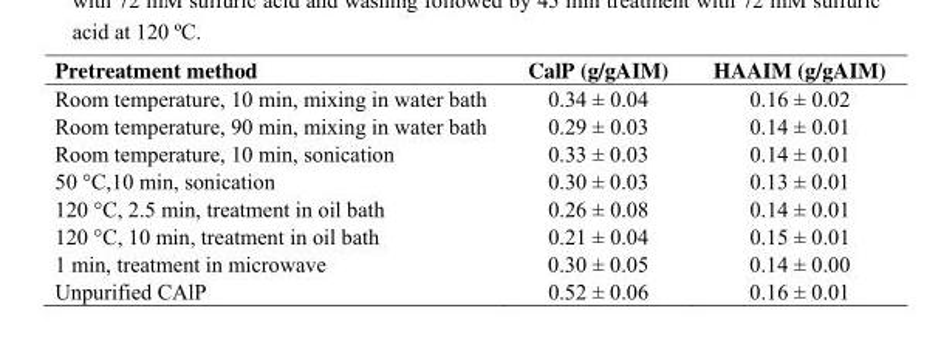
<table><thead><tr><td>Pretreatment method</td><td>CalP (g/gAIM)</td><td>HAAIM (g/gAIM)</td></tr></thead><tbody><tr><td>Room temperature, 10 min, mixing in water bath</td><td>0.34 ± 0.04</td><td>0.16 ± 0.02</td></tr><tr><td>Room temperature, 90 min, mixing in water bath</td><td>0.29 ± 0.03</td><td>0.14 ± 0.01</td></tr><tr><td>Room temperature, 10 min, sonication</td><td>0.33 ± 0.03</td><td>0.14 ± 0.01</td></tr><tr><td>50 °C,10 min, sonication</td><td>0.30 ± 0.03</td><td>0.13 ± 0.01</td></tr><tr><td>120 °C, 2.5 min, treatment in oil bath</td><td>0.26 ± 0.08</td><td>0.14 ± 0.01</td></tr><tr><td>120 °C, 10 min, treatment in oil bath</td><td>0.21 ± 0.04</td><td>0.15 ± 0.01</td></tr><tr><td>1 min, treatment in microwave</td><td>0.30 ± 0.05</td><td>0.14 ± 0.00</td></tr><tr><td>Unpurified CAlP</td><td>0.52 ± 0.06</td><td>0.16 ± 0.01</td></tr></tbody></table>